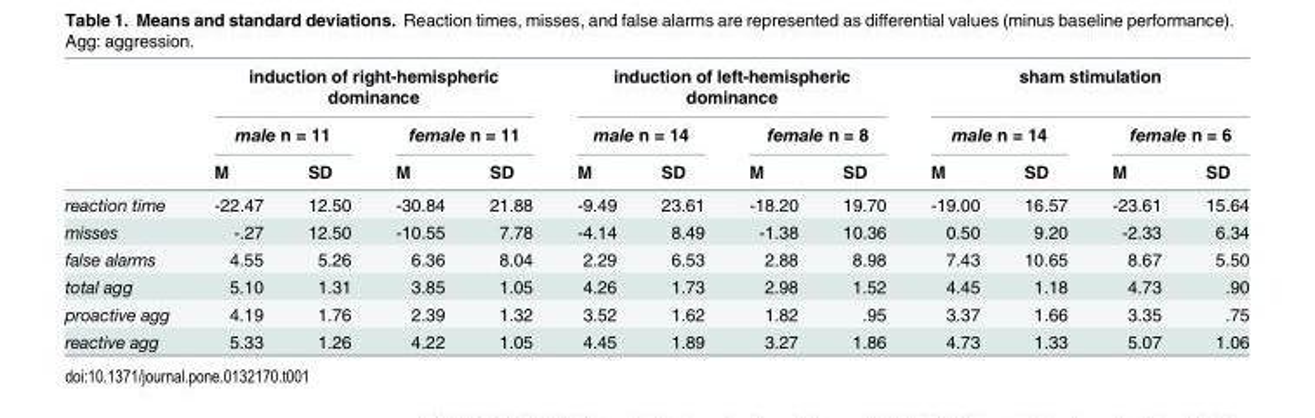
<table><thead><tr><td rowspan="3"></td><td colspan="4">induction of right-hemispheric dominance</td><td colspan="4">induction of left-hemispheric dominance</td><td colspan="4">sham stimulation</td></tr><tr><td colspan="2">male n = 11</td><td colspan="2">female n = 11</td><td colspan="2">male n = 14</td><td colspan="2">female n = 8</td><td colspan="2">male n = 14</td><td colspan="2">female n = 6</td></tr><tr><td>M</td><td>SD</td><td>M</td><td>SD</td><td>M</td><td>SD</td><td>M</td><td>SD</td><td>M</td><td>SD</td><td>M</td><td>SD</td></tr></thead><tbody><tr><td>reaction time</td><td>-22.47</td><td>12.50</td><td>-30.84</td><td>21.88</td><td>-9.49</td><td>23.61</td><td>-18.20</td><td>19.70</td><td>-19.00</td><td>16.57</td><td>-23.61</td><td>15.64</td></tr><tr><td>misses</td><td>-.27</td><td>12.50</td><td>-10.55</td><td>7.78</td><td>-4.14</td><td>8.49</td><td>-1.38</td><td>10.36</td><td>0.50</td><td>9.20</td><td>-2.33</td><td>6.34</td></tr><tr><td>false alarms</td><td>4.55</td><td>5.26</td><td>6.36</td><td>8.04</td><td>2.29</td><td>6.53</td><td>2.88</td><td>8.98</td><td>7.43</td><td>10.65</td><td>8.67</td><td>5.50</td></tr><tr><td>total agg</td><td>5.10</td><td>1.31</td><td>3.85</td><td>1.05</td><td>4.26</td><td>1.73</td><td>2.98</td><td>1.52</td><td>4.45</td><td>1.18</td><td>4.73</td><td>.90</td></tr><tr><td>proactive agg</td><td>4.19</td><td>1.76</td><td>2.39</td><td>1.32</td><td>3.52</td><td>1.62</td><td>1.82</td><td>.95</td><td>3.37</td><td>1.66</td><td>3.35</td><td>.75</td></tr><tr><td>reactive agg</td><td>5.33</td><td>1.26</td><td>4.22</td><td>1.05</td><td>4.45</td><td>1.89</td><td>3.27</td><td>1.86</td><td>4.73</td><td>1.33</td><td>5.07</td><td>1.06</td></tr></tbody></table>